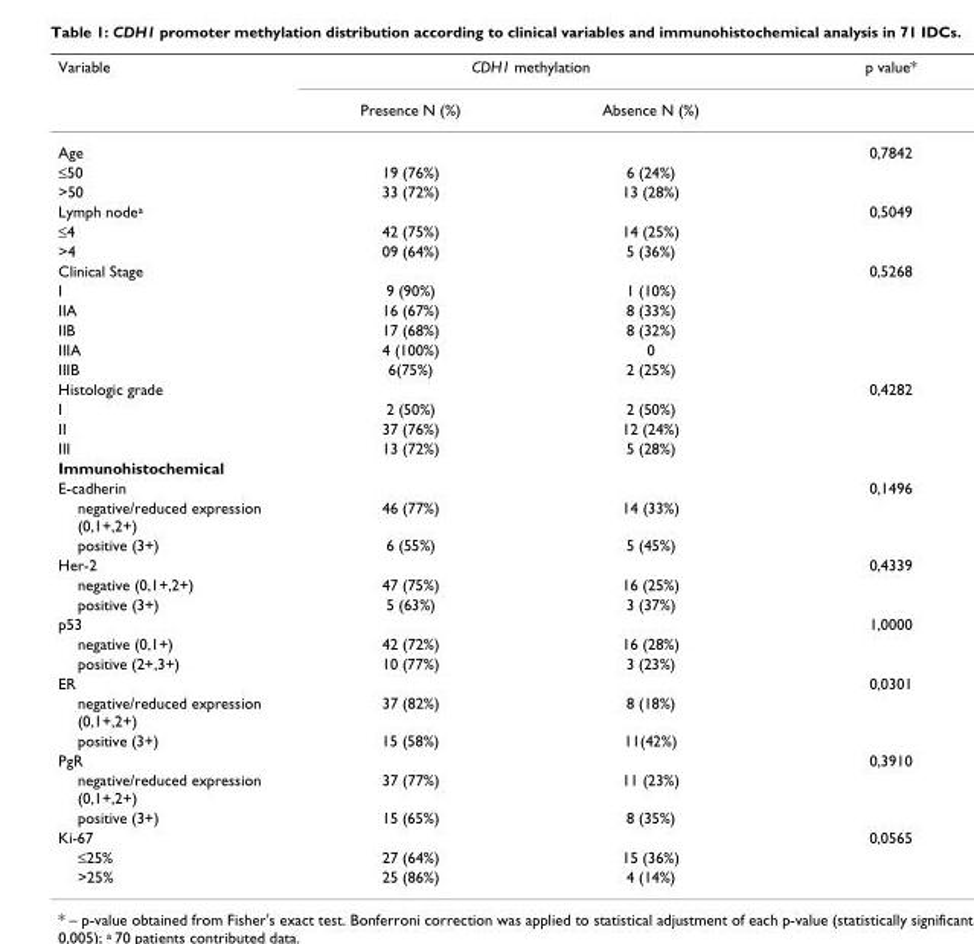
<table><thead><tr><td rowspan="2">Variable</td><td colspan="2">CDH1 methylation</td><td rowspan="2">p value*</td></tr><tr><td>Presence N (%)</td><td>Absence N (%)</td></tr></thead><tbody><tr><td>Age</td><td></td><td></td><td>0,7842</td></tr><tr><td>≤50</td><td>19 (76%)</td><td>6 (24%)</td><td></td></tr><tr><td>&gt;50</td><td>33 (72%)</td><td>13 (28%)</td><td></td></tr><tr><td>Lymph nodea</td><td></td><td></td><td>0,5049</td></tr><tr><td>≤4</td><td>42 (75%)</td><td>14 (25%)</td><td></td></tr><tr><td>&gt;4</td><td>09 (64%)</td><td>5 (36%)</td><td></td></tr><tr><td>Clinical Stage</td><td></td><td></td><td>0,5268</td></tr><tr><td>I</td><td>9 (90%)</td><td>1 (10%)</td><td></td></tr><tr><td>IIA</td><td>16 (67%)</td><td>8 (33%)</td><td></td></tr><tr><td>IIB</td><td>17 (68%)</td><td>8 (32%)</td><td></td></tr><tr><td>IIIA</td><td>4 (100%)</td><td>0</td><td></td></tr><tr><td>IIIB</td><td>6(75%)</td><td>2 (25%)</td><td></td></tr><tr><td>Histologic grade</td><td></td><td></td><td>0,4282</td></tr><tr><td>I</td><td>2 (50%)</td><td>2 (50%)</td><td></td></tr><tr><td>II</td><td>37 (76%)</td><td>12 (24%)</td><td></td></tr><tr><td>III</td><td>13 (72%)</td><td>5 (28%)</td><td></td></tr><tr><td colspan="4">Immunohistochemical</td></tr><tr><td>E-cadherin</td><td></td><td></td><td>0,1496</td></tr><tr><td>negative/reduced expression (0,1+,2+)</td><td>46 (77%)</td><td>14 (33%)</td><td></td></tr><tr><td>positive (3+)</td><td>6 (55%)</td><td>5 (45%)</td><td></td></tr><tr><td>Her-2</td><td></td><td></td><td>0,4339</td></tr><tr><td>negative (0,1+,2+)</td><td>47 (75%)</td><td>16 (25%)</td><td></td></tr><tr><td>positive (3+)</td><td>5 (63%)</td><td>3 (37%)</td><td></td></tr><tr><td>p53</td><td></td><td></td><td>1,0000</td></tr><tr><td>negative (0,1+)</td><td>42 (72%)</td><td>16 (28%)</td><td></td></tr><tr><td>positive (2+,3+)</td><td>10 (77%)</td><td>3 (23%)</td><td></td></tr><tr><td>ER</td><td></td><td></td><td>0,0301</td></tr><tr><td>negative/reduced expression (0,1+,2+)</td><td>37 (82%)</td><td>8 (18%)</td><td></td></tr><tr><td>positive (3+)</td><td>15 (58%)</td><td>11(42%)</td><td></td></tr><tr><td>PgR</td><td></td><td></td><td>0,3910</td></tr><tr><td>negative/reduced expression (0,1+,2+)</td><td>37 (77%)</td><td>11 (23%)</td><td></td></tr><tr><td>positive (3+)</td><td>15 (65%)</td><td>8 (35%)</td><td></td></tr><tr><td>Ki-67</td><td></td><td></td><td>0,0565</td></tr><tr><td>≤25%</td><td>27 (64%)</td><td>15 (36%)</td><td></td></tr><tr><td>&gt;25%</td><td>25 (86%)</td><td>4 (14%)</td><td></td></tr></tbody></table>